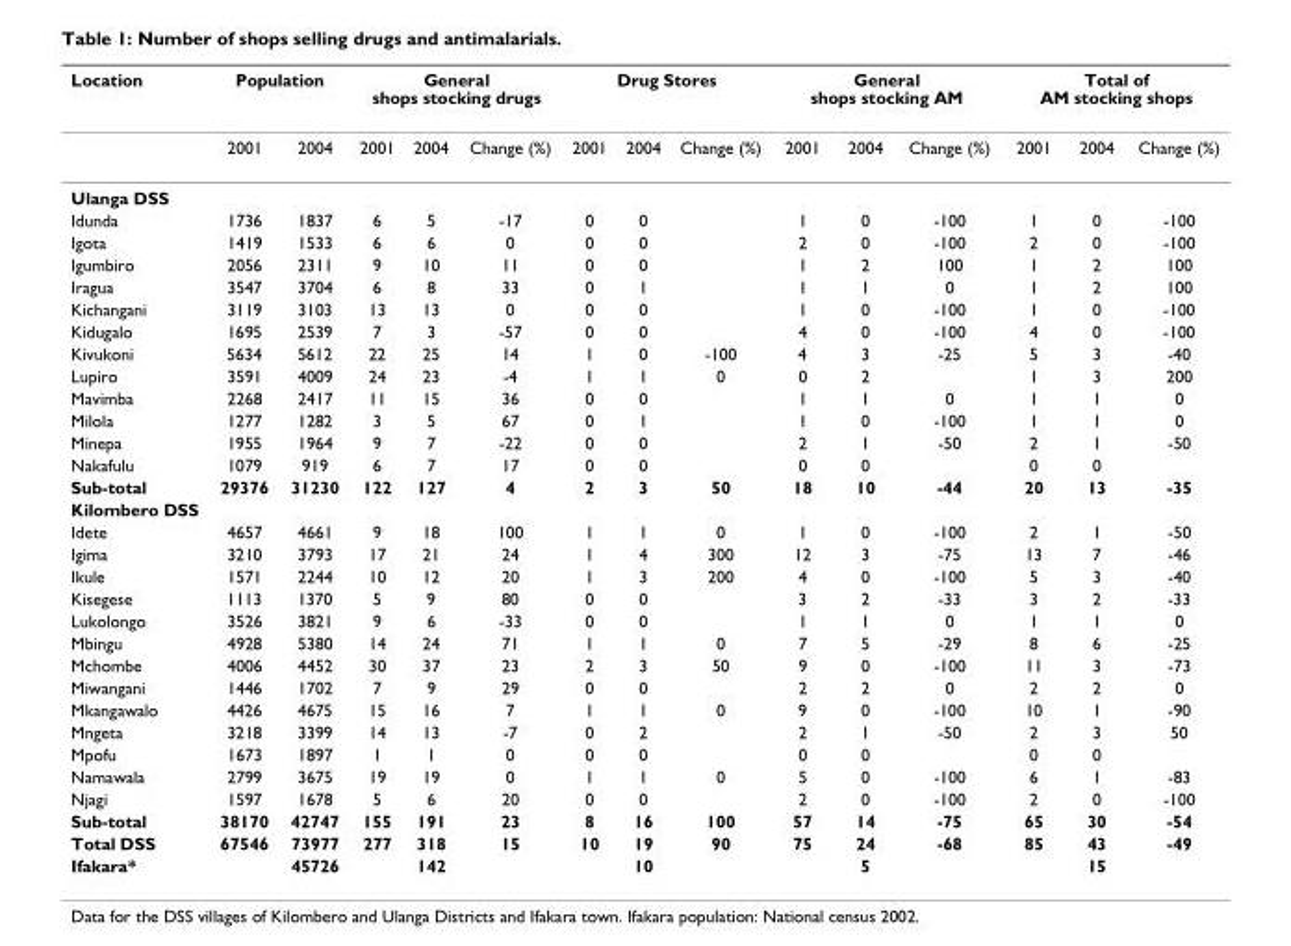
<table><thead><tr><td rowspan="2">Location</td><td colspan="2">Population</td><td colspan="3">General shops stocking drugs</td><td colspan="3">Drug Stores</td><td colspan="3">General shops stocking AM</td><td colspan="3">Total of AM stocking shops</td></tr><tr><td>2001</td><td>2004</td><td>2001</td><td>2004</td><td>Change (%)</td><td>2001</td><td>2004</td><td>Change (%)</td><td>2001</td><td>2004</td><td>Change (%)</td><td>2001</td><td>2004</td><td>Change (%)</td></tr></thead><tbody><tr><td colspan="15">Ulanga DSS</td></tr><tr><td>Idunda</td><td>1736</td><td>1837</td><td>6</td><td>5</td><td>-17</td><td>0</td><td>0</td><td></td><td>1</td><td>0</td><td>-100</td><td>1</td><td>0</td><td>-100</td></tr><tr><td>Igota</td><td>1419</td><td>1533</td><td>6</td><td>6</td><td>0</td><td>0</td><td>0</td><td></td><td>2</td><td>0</td><td>-100</td><td>2</td><td>0</td><td>-100</td></tr><tr><td>Igumbiro</td><td>2056</td><td>2311</td><td>9</td><td>10</td><td>11</td><td>0</td><td>0</td><td></td><td>1</td><td>2</td><td>100</td><td>1</td><td>2</td><td>100</td></tr><tr><td>Iragua</td><td>3547</td><td>3704</td><td>6</td><td>8</td><td>33</td><td>0</td><td>1</td><td></td><td>1</td><td>1</td><td>0</td><td>1</td><td>2</td><td>100</td></tr><tr><td>Kichangani</td><td>3119</td><td>3103</td><td>13</td><td>13</td><td>0</td><td>0</td><td>0</td><td></td><td>1</td><td>0</td><td>-100</td><td>1</td><td>0</td><td>-100</td></tr><tr><td>Kidugalo</td><td>1695</td><td>2539</td><td>7</td><td>3</td><td>-57</td><td>0</td><td>0</td><td></td><td>4</td><td>0</td><td>-100</td><td>4</td><td>0</td><td>-100</td></tr><tr><td>Kivukoni</td><td>5634</td><td>5612</td><td>22</td><td>25</td><td>14</td><td>1</td><td>0</td><td>-100</td><td>4</td><td>3</td><td>-25</td><td>5</td><td>3</td><td>-40</td></tr><tr><td>Lupiro</td><td>3591</td><td>4009</td><td>24</td><td>23</td><td>-4</td><td>1</td><td>1</td><td>0</td><td>0</td><td>2</td><td></td><td>1</td><td>3</td><td>200</td></tr><tr><td>Mavimba</td><td>2268</td><td>2417</td><td>11</td><td>15</td><td>36</td><td>0</td><td>0</td><td></td><td>1</td><td>1</td><td>0</td><td>1</td><td>1</td><td>0</td></tr><tr><td>Milola</td><td>1277</td><td>1282</td><td>3</td><td>5</td><td>67</td><td>0</td><td>1</td><td></td><td>1</td><td>0</td><td>-100</td><td>1</td><td>1</td><td>0</td></tr><tr><td>Minepa</td><td>1955</td><td>1964</td><td>9</td><td>7</td><td>-22</td><td>0</td><td>0</td><td></td><td>2</td><td>1</td><td>-50</td><td>2</td><td>1</td><td>-50</td></tr><tr><td>Nakafulu</td><td>1079</td><td>919</td><td>6</td><td>7</td><td>17</td><td>0</td><td>0</td><td></td><td>0</td><td>0</td><td></td><td>0</td><td>0</td><td></td></tr><tr><td>Sub-total</td><td>29376</td><td>31230</td><td>122</td><td>127</td><td>4</td><td>2</td><td>3</td><td>50</td><td>18</td><td>10</td><td>-44</td><td>20</td><td>13</td><td>-35</td></tr><tr><td colspan="15">Kilombero DSS</td></tr><tr><td>Idete</td><td>4657</td><td>4661</td><td>9</td><td>18</td><td>100</td><td>1</td><td>1</td><td>0</td><td>1</td><td>0</td><td>-100</td><td>2</td><td>1</td><td>-50</td></tr><tr><td>Igima</td><td>3210</td><td>3793</td><td>17</td><td>21</td><td>24</td><td>1</td><td>4</td><td>300</td><td>12</td><td>3</td><td>-75</td><td>13</td><td>7</td><td>-46</td></tr><tr><td>Ikule</td><td>1571</td><td>2244</td><td>10</td><td>12</td><td>20</td><td>1</td><td>3</td><td>200</td><td>4</td><td>0</td><td>-100</td><td>5</td><td>3</td><td>-40</td></tr><tr><td>Kisegese</td><td>1113</td><td>1370</td><td>5</td><td>9</td><td>80</td><td>0</td><td>0</td><td></td><td>3</td><td>2</td><td>-33</td><td>3</td><td>2</td><td>-33</td></tr><tr><td>Lukolongo</td><td>3526</td><td>3821</td><td>9</td><td>6</td><td>-33</td><td>0</td><td>0</td><td></td><td>1</td><td>1</td><td>0</td><td>1</td><td>1</td><td>0</td></tr><tr><td>Mbingu</td><td>4928</td><td>5380</td><td>14</td><td>24</td><td>71</td><td>1</td><td>1</td><td>0</td><td>7</td><td>5</td><td>-29</td><td>8</td><td>6</td><td>-25</td></tr><tr><td>Mchombe</td><td>4006</td><td>4452</td><td>30</td><td>37</td><td>23</td><td>2</td><td>3</td><td>50</td><td>9</td><td>0</td><td>-100</td><td>11</td><td>3</td><td>-73</td></tr><tr><td>Miwangani</td><td>1446</td><td>1702</td><td>7</td><td>9</td><td>29</td><td>0</td><td>0</td><td></td><td>2</td><td>2</td><td>0</td><td>2</td><td>2</td><td>0</td></tr><tr><td>Mkangawalo</td><td>4426</td><td>4675</td><td>15</td><td>16</td><td>7</td><td>1</td><td>1</td><td>0</td><td>9</td><td>0</td><td>-100</td><td>10</td><td>1</td><td>-90</td></tr><tr><td>Mngeta</td><td>3218</td><td>3399</td><td>14</td><td>13</td><td>-7</td><td>0</td><td>2</td><td></td><td>2</td><td>1</td><td>-50</td><td>2</td><td>3</td><td>50</td></tr><tr><td>Mpofu</td><td>1673</td><td>1897</td><td>1</td><td>1</td><td>0</td><td>0</td><td>0</td><td></td><td>0</td><td>0</td><td></td><td>0</td><td>0</td><td></td></tr><tr><td>Namawala</td><td>2799</td><td>3675</td><td>19</td><td>19</td><td>0</td><td>1</td><td>1</td><td>0</td><td>5</td><td>0</td><td>-100</td><td>6</td><td>1</td><td>-83</td></tr><tr><td>Njagi</td><td>1597</td><td>1678</td><td>5</td><td>6</td><td>20</td><td>0</td><td>0</td><td></td><td>2</td><td>0</td><td>-100</td><td>2</td><td>0</td><td>-100</td></tr><tr><td>Sub-total</td><td>38170</td><td>42747</td><td>155</td><td>191</td><td>23</td><td>8</td><td>16</td><td>100</td><td>57</td><td>14</td><td>-75</td><td>65</td><td>30</td><td>-54</td></tr><tr><td>Total DSS</td><td>67546</td><td>73977</td><td>277</td><td>318</td><td>15</td><td>10</td><td>19</td><td>90</td><td>75</td><td>24</td><td>-68</td><td>85</td><td>43</td><td>-49</td></tr><tr><td>Ifakara*</td><td></td><td>45726</td><td></td><td>142</td><td></td><td></td><td>10</td><td></td><td></td><td>5</td><td></td><td></td><td>15</td><td></td></tr></tbody></table>